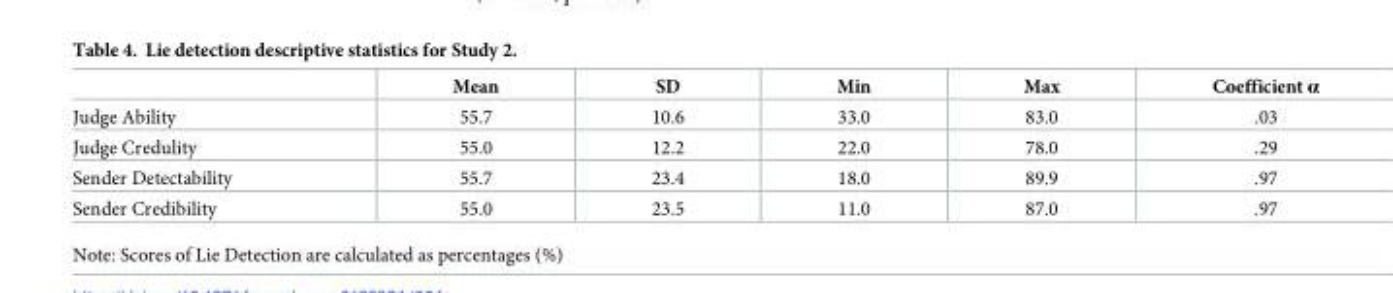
<table><thead><tr><td></td><td>Mean</td><td>SD</td><td>Min</td><td>Max</td><td>Coefficient α</td></tr></thead><tbody><tr><td>Judge Ability</td><td>55.7</td><td>10.6</td><td>33.0</td><td>83.0</td><td>.03</td></tr><tr><td>Judge Credulity</td><td>55.0</td><td>12.2</td><td>22.0</td><td>78.0</td><td>.29</td></tr><tr><td>Sender Detectability</td><td>55.7</td><td>23.4</td><td>18.0</td><td>89.9</td><td>.97</td></tr><tr><td>Sender Credibility</td><td>55.0</td><td>23.5</td><td>11.0</td><td>87.0</td><td>.97</td></tr></tbody></table>